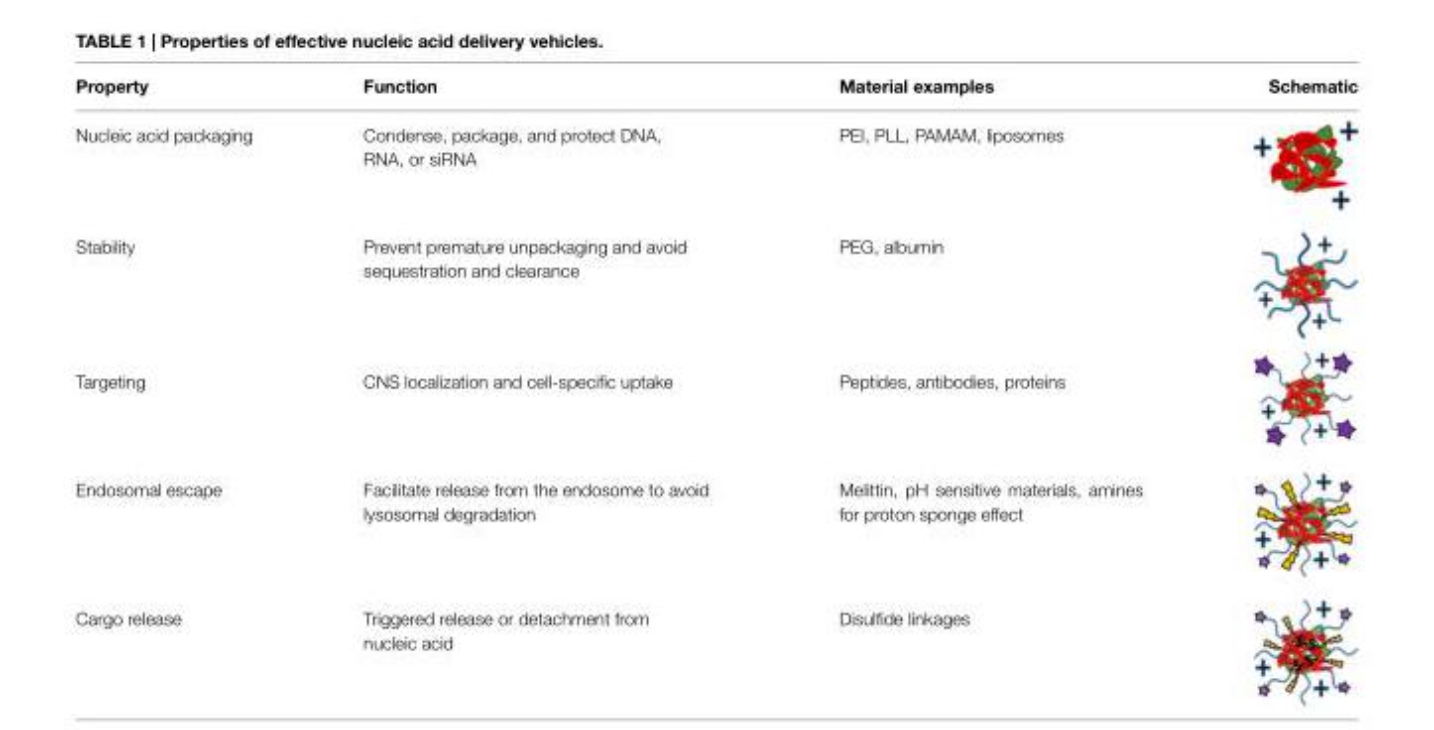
<table><thead><tr><td>Property</td><td>Function</td><td>Material examples</td><td>Schematic</td></tr></thead><tbody><tr><td>Nucleic acid packaging</td><td>Condense, package, and protect DNA, RNA, or siRNA</td><td>PEI, PLL, PAMAM, liposomes</td><td></td></tr><tr><td>Stability</td><td>Prevent premature unpackaging and avoid sequestration and clearance</td><td>PEG, albumin</td><td></td></tr><tr><td>Targeting</td><td>CNS localization and cell-specific uptake</td><td>Peptides, antibodies, proteins</td><td></td></tr><tr><td>Endosomal escape</td><td>Facilitate release from the endosome to avoid lysosomal degradation</td><td>Melittin, pH sensitive materials, amines for proton sponge effect</td><td></td></tr><tr><td>Cargo release</td><td>Triggered release or detachment from nucleic acid</td><td>Disulfide linkages</td><td></td></tr></tbody></table>